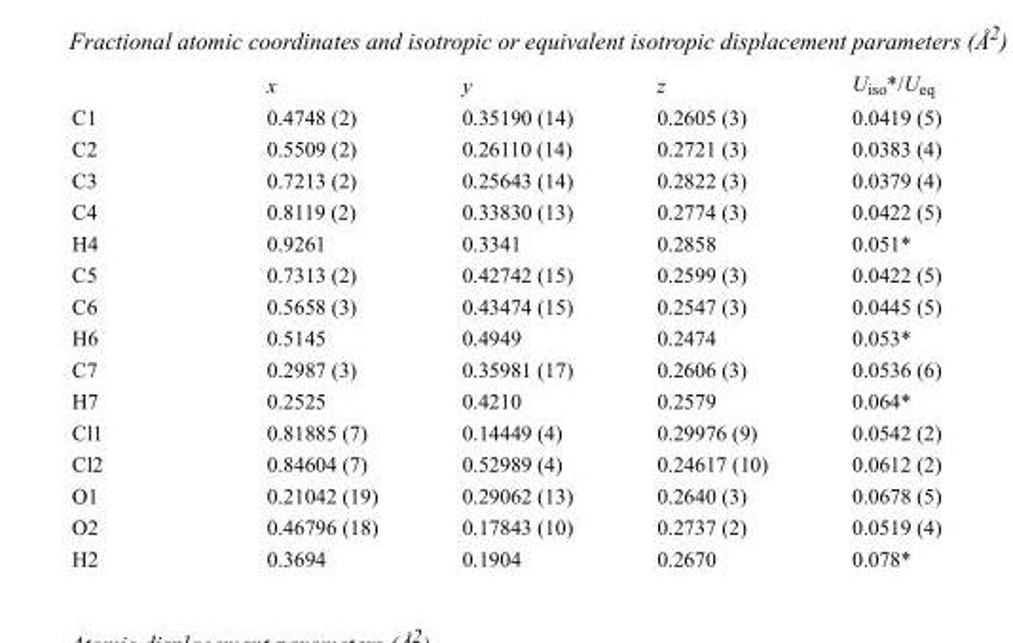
<table><thead><tr><td></td><td>x</td><td>y</td><td>z</td><td>U<sub>iso</sub>*/U<sub>eq</sub></td></tr></thead><tbody><tr><td>C1</td><td>0.4748 (2)</td><td>0.35190 (14)</td><td>0.2605 (3)</td><td>0.0419 (5)</td></tr><tr><td>C2</td><td>0.5509 (2)</td><td>0.26110 (14)</td><td>0.2721 (3)</td><td>0.0383 (4)</td></tr><tr><td>C3</td><td>0.7213 (2)</td><td>0.25643 (14)</td><td>0.2822 (3)</td><td>0.0379 (4)</td></tr><tr><td>C4</td><td>0.8119 (2)</td><td>0.33830 (13)</td><td>0.2774 (3)</td><td>0.0422 (5)</td></tr><tr><td>H4</td><td>0.9261</td><td>0.3341</td><td>0.2858</td><td>0.051*</td></tr><tr><td>C5</td><td>0.7313 (2)</td><td>0.42742 (15)</td><td>0.2599 (3)</td><td>0.0422 (5)</td></tr><tr><td>C6</td><td>0.5658 (3)</td><td>0.43474 (15)</td><td>0.2547 (3)</td><td>0.0445 (5)</td></tr><tr><td>H6</td><td>0.5145</td><td>0.4949</td><td>0.2474</td><td>0.053*</td></tr><tr><td>C7</td><td>0.2987 (3)</td><td>0.35981 (17)</td><td>0.2606 (3)</td><td>0.0536 (6)</td></tr><tr><td>H7</td><td>0.2525</td><td>0.4210</td><td>0.2579</td><td>0.064*</td></tr><tr><td>Cl1</td><td>0.81885 (7)</td><td>0.14449 (4)</td><td>0.29976 (9)</td><td>0.0542 (2)</td></tr><tr><td>Cl2</td><td>0.84604 (7)</td><td>0.52989 (4)</td><td>0.24617 (10)</td><td>0.0612 (2)</td></tr><tr><td>O1</td><td>0.21042 (19)</td><td>0.29062 (13)</td><td>0.2640 (3)</td><td>0.0678 (5)</td></tr><tr><td>O2</td><td>0.46796 (18)</td><td>0.17843 (10)</td><td>0.2737 (2)</td><td>0.0519 (4)</td></tr><tr><td>H2</td><td>0.3694</td><td>0.1904</td><td>0.2670</td><td>0.078*</td></tr></tbody></table>